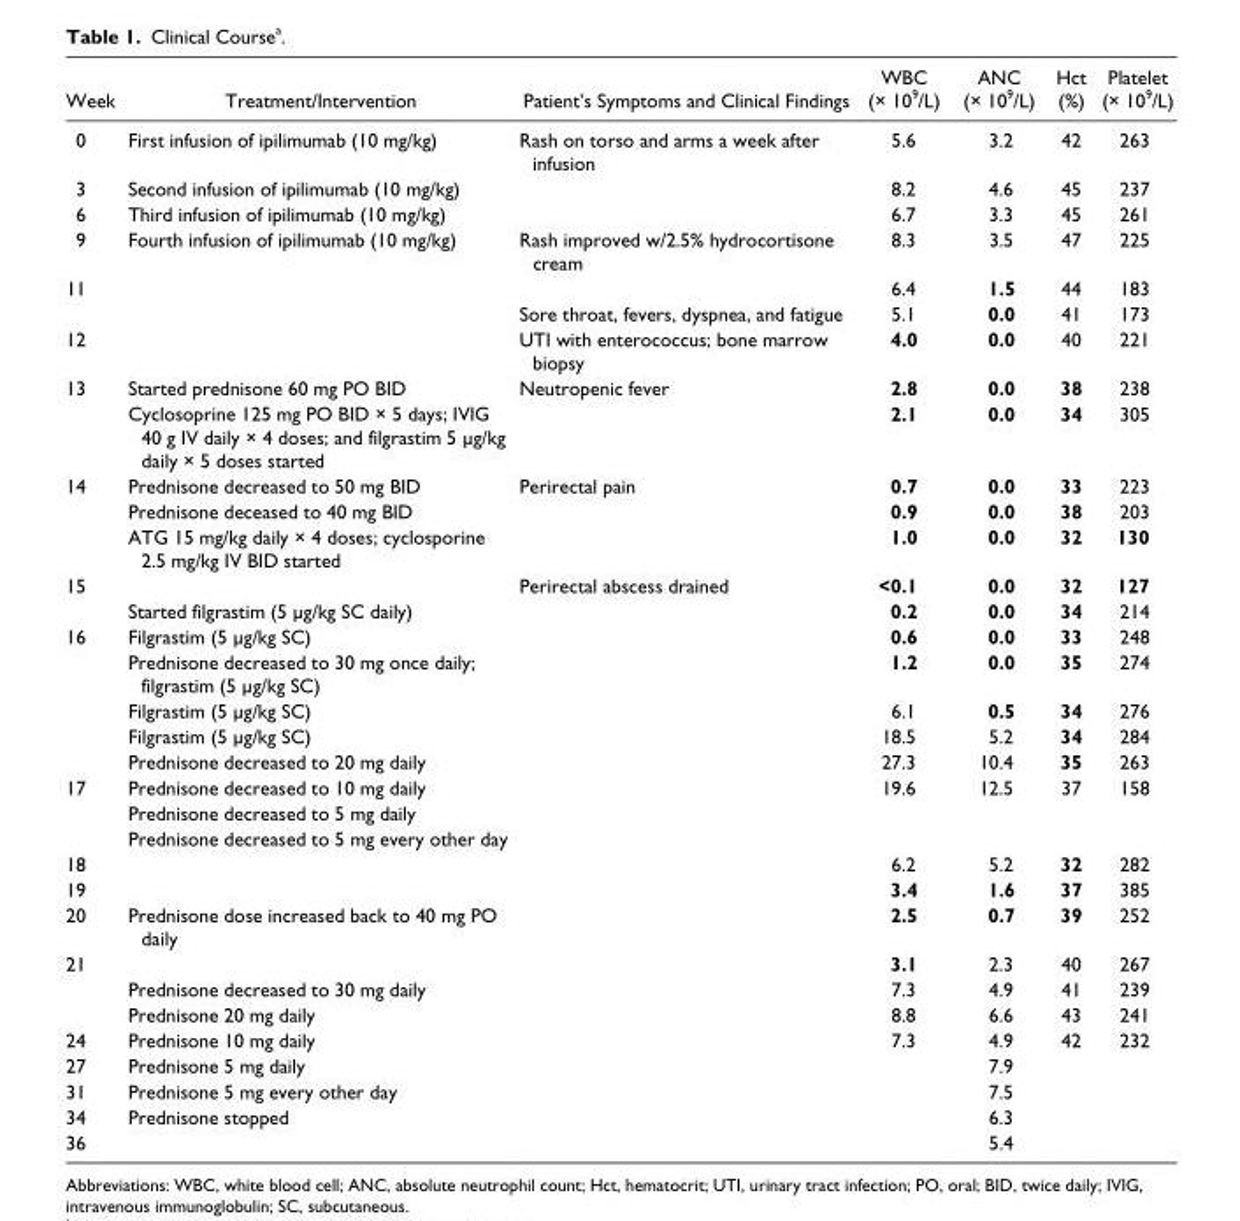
<table><thead><tr><td>Week</td><td>Treatment/Intervention</td><td>Patient’s Symptoms and Clinical Findings</td><td>WBC (× 10<sup>9</sup>/L)</td><td>ANC (× 10<sup>9</sup>/L)</td><td>Hct (%)</td><td>Platelet (× 10<sup>9</sup>/L)</td></tr></thead><tbody><tr><td>0</td><td>First infusion of ipilimumab (10 mg/kg)</td><td>Rash on torso and arms a week after infusion</td><td>5.6</td><td>3.2</td><td>42</td><td>263</td></tr><tr><td>3</td><td>Second infusion of ipilimumab (10 mg/kg)</td><td></td><td>8.2</td><td>4.6</td><td>45</td><td>237</td></tr><tr><td>6</td><td>Third infusion of ipilimumab (10 mg/kg)</td><td></td><td>6.7</td><td>3.3</td><td>45</td><td>261</td></tr><tr><td>9</td><td>Fourth infusion of ipilimumab (10 mg/kg)</td><td>Rash improved w/2.5% hydrocortisone cream</td><td>8.3</td><td>3.5</td><td>47</td><td>225</td></tr><tr><td rowspan="2">11</td><td></td><td></td><td>6.4</td><td>1.5</td><td>44</td><td>183</td></tr><tr><td></td><td>Sore throat, fevers, dyspnea, and fatigue</td><td>5.1</td><td>0.0</td><td>41</td><td>173</td></tr><tr><td>12</td><td></td><td>UTI with enterococcus; bone marrow biopsy</td><td>4.0</td><td>0.0</td><td>40</td><td>221</td></tr><tr><td rowspan="2">13</td><td>Started prednisone 60 mg PO BID</td><td>Neutropenic fever</td><td>2.8</td><td>0.0</td><td>38</td><td>238</td></tr><tr><td>Cyclosoprine 125 mg PO BID × 5 days; IVIG 40 g IV daily × 4 doses; and filgrastim 5 µg/kg daily × 5 doses started</td><td></td><td>2.1</td><td>0.0</td><td>34</td><td>305</td></tr><tr><td rowspan="3">14</td><td>Prednisone decreased to 50 mg BID</td><td>Perirectal pain</td><td>0.7</td><td>0.0</td><td>33</td><td>223</td></tr><tr><td>Prednisone deceased to 40 mg BID</td><td></td><td>0.9</td><td>0.0</td><td>38</td><td>203</td></tr><tr><td>ATG 15 mg/kg daily × 4 doses; cyclosporine 2.5 mg/kg IV BID started</td><td></td><td>1.0</td><td>0.0</td><td>32</td><td>130</td></tr><tr><td rowspan="2">15</td><td></td><td>Perirectal abscess drained</td><td>&lt;0.1</td><td>0.0</td><td>32</td><td>127</td></tr><tr><td>Started filgrastim (5 µg/kg SC daily)</td><td></td><td>0.2</td><td>0.0</td><td>34</td><td>214</td></tr><tr><td rowspan="5">16</td><td>Filgrastim (5 µg/kg SC)</td><td></td><td>0.6</td><td>0.0</td><td>33</td><td>248</td></tr><tr><td>Prednisone decreased to 30 mg once daily; filgrastim (5 µg/kg SC)</td><td></td><td>1.2</td><td>0.0</td><td>35</td><td>274</td></tr><tr><td>Filgrastim (5 µg/kg SC)</td><td></td><td>6.1</td><td>0.5</td><td>34</td><td>276</td></tr><tr><td>Filgrastim (5 µg/kg SC)</td><td></td><td>18.5</td><td>5.2</td><td>34</td><td>284</td></tr><tr><td>Prednisone decreased to 20 mg daily</td><td></td><td>27.3</td><td>10.4</td><td>35</td><td>263</td></tr><tr><td rowspan="3">17</td><td>Prednisone decreased to 10 mg daily</td><td></td><td>19.6</td><td>12.5</td><td>37</td><td>158</td></tr><tr><td>Prednisone decreased to 5 mg daily</td><td></td><td></td><td></td><td></td><td></td></tr><tr><td>Prednisone decreased to 5 mg every other day</td><td></td><td></td><td></td><td></td><td></td></tr><tr><td>18</td><td></td><td></td><td>6.2</td><td>5.2</td><td>32</td><td>282</td></tr><tr><td>19</td><td></td><td></td><td>3.4</td><td>1.6</td><td>37</td><td>385</td></tr><tr><td>20</td><td>Prednisone dose increased back to 40 mg PO daily</td><td></td><td>2.5</td><td>0.7</td><td>39</td><td>252</td></tr><tr><td rowspan="3">21</td><td></td><td></td><td>3.1</td><td>2.3</td><td>40</td><td>267</td></tr><tr><td>Prednisone decreased to 30 mg daily</td><td></td><td>7.3</td><td>4.9</td><td>41</td><td>239</td></tr><tr><td>Prednisone 20 mg daily</td><td></td><td>8.8</td><td>6.6</td><td>43</td><td>241</td></tr><tr><td>24</td><td>Prednisone 10 mg daily</td><td></td><td>7.3</td><td>4.9</td><td>42</td><td>232</td></tr><tr><td>27</td><td>Prednisone 5 mg daily</td><td></td><td></td><td>7.9</td><td></td><td></td></tr><tr><td>31</td><td>Prednisone 5 mg every other day</td><td></td><td></td><td>7.5</td><td></td><td></td></tr><tr><td>34</td><td>Prednisone stopped</td><td></td><td></td><td>6.3</td><td></td><td></td></tr><tr><td>36</td><td></td><td></td><td></td><td>5.4</td><td></td><td></td></tr></tbody></table>